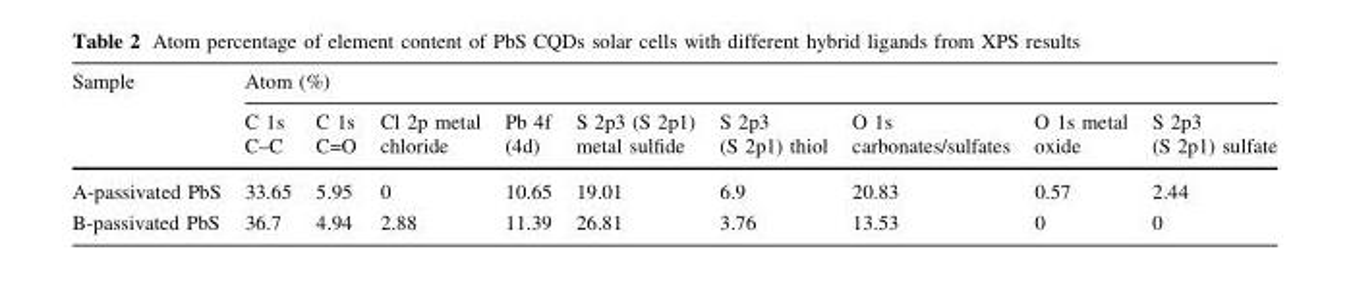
<table><thead><tr><td rowspan="2">Sample</td><td colspan="9">Atom (%)</td></tr><tr><td>C 1s C–C</td><td>C 1s C=O</td><td>Cl 2p metal chloride</td><td>Pb 4f (4d)</td><td>S 2p3 (S 2p1) metal sulfide</td><td>S 2p3 (S 2p1) thiol</td><td>O 1s carbonates/sulfates</td><td>O 1s metal oxide</td><td>S 2p3 (S 2p1) sulfate</td></tr></thead><tbody><tr><td>A-passivated PbS</td><td>33.65</td><td>5.95</td><td>0</td><td>10.65</td><td>19.01</td><td>6.9</td><td>20.83</td><td>0.57</td><td>2.44</td></tr><tr><td>B-passivated PbS</td><td>36.7</td><td>4.94</td><td>2.88</td><td>11.39</td><td>26.81</td><td>3.76</td><td>13.53</td><td>0</td><td>0</td></tr></tbody></table>